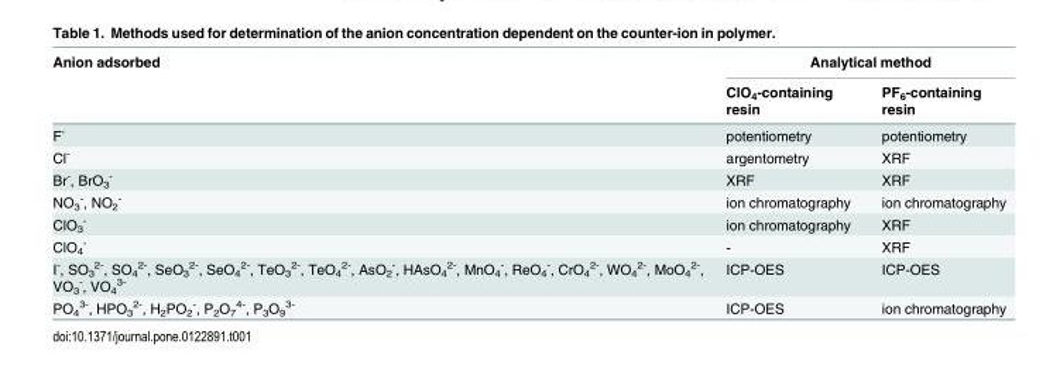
<table><thead><tr><td rowspan="2">Anion adsorbed</td><td colspan="2">Analytical method</td></tr><tr><td>ClO<sub>4</sub>-containing resin</td><td>PF<sub>6</sub>-containing resin</td></tr></thead><tbody><tr><td>F<sup>-</sup></td><td>potentiometry</td><td>potentiometry</td></tr><tr><td>Cl<sup>-</sup></td><td>argentometry</td><td>XRF</td></tr><tr><td>Br<sup>-</sup>, BrO<sub>3</sub> <sup>-</sup></td><td>XRF</td><td>XRF</td></tr><tr><td>NO<sub>3</sub> <sup>-</sup>, NO<sub>2</sub> <sup>-</sup></td><td>ion chromatography</td><td>ion chromatography</td></tr><tr><td>ClO<sub>3</sub> <sup>-</sup></td><td>ion chromatography</td><td>XRF</td></tr><tr><td>ClO<sub>4</sub> <sup>-</sup></td><td>-</td><td>XRF</td></tr><tr><td>I-, SO3 2-, SO4 2-, SeO3 2-, SeO4 2-, TeO3 2-, TeO4 2-, AsO2 -, HAsO4 2-, MnO4 -, ReO4 -, CrO4 2-, WO4 2-, MoO4 2-, VO3 -, VO4 3-</td><td>ICP-OES</td><td>ICP-OES</td></tr><tr><td>PO<sub>4</sub> <sup>3-</sup>, HPO<sub>3</sub> <sup>2-</sup>, H<sub>2</sub>PO<sub>2</sub> <sup>-</sup>, P<sub>2</sub>O<sub>7</sub> <sup>4-</sup>, P<sub>3</sub>O<sub>9</sub> <sup>3-</sup></td><td>ICP-OES</td><td>ion chromatography</td></tr></tbody></table>